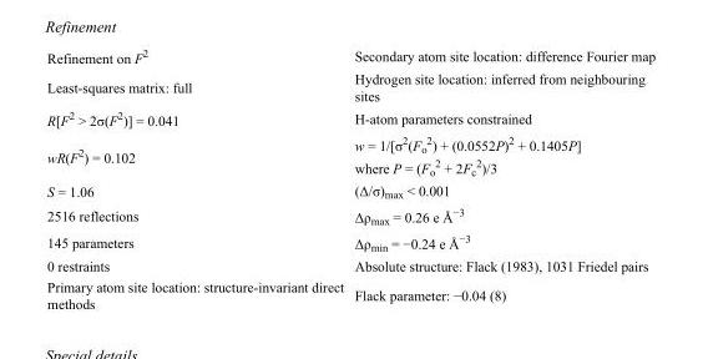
<table><tbody><tr><td>Refinement on F<sup>2</sup></td><td>Secondary atom site location: difference Fourier map</td></tr><tr><td>Least-squares matrix: full</td><td>Hydrogen site location: inferred from neighbouring sites</td></tr><tr><td>R[F<sup>2</sup> &gt; 2σ(F<sup>2</sup>)] = 0.041</td><td>H-atom parameters constrained</td></tr><tr><td>wR(F<sup>2</sup>) = 0.102</td><td>w = 1/[σ<sup>2</sup>(F<sub>o</sub> <sup>2</sup>) + (0.0552P)<sup>2</sup> + 0.1405P] where P = (F<sub>o</sub> <sup>2</sup> + 2F<sub>c</sub> <sup>2</sup>)/3</td></tr><tr><td>S = 1.06</td><td>(Δ/σ)<sub>max</sub> &lt; 0.001</td></tr><tr><td>2516 reflections</td><td>Δρ<sub>max</sub> = 0.26 e Å<sup>−3</sup></td></tr><tr><td>145 parameters</td><td>Δρ<sub>min</sub> = −0.24 e Å<sup>−3</sup></td></tr><tr><td>0 restraints</td><td>Absolute structure: Flack (1983), 1031 Friedel pairs</td></tr><tr><td>Primary atom site location: structure-invariant direct methods</td><td>Flack parameter: −0.04 (8)</td></tr></tbody></table>